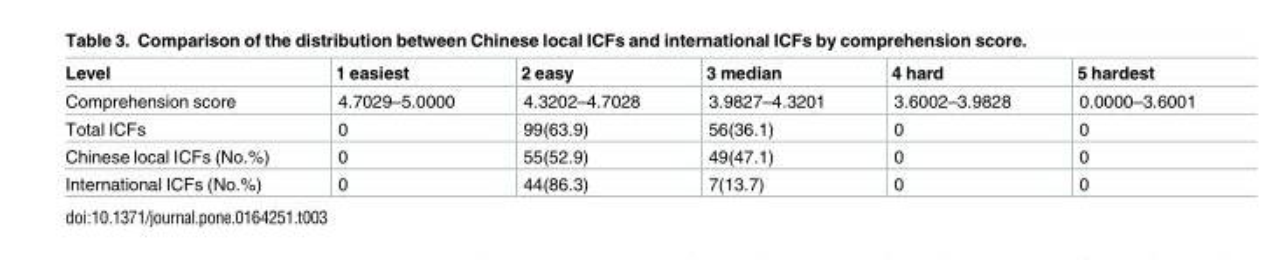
<table><thead><tr><td>Level</td><td>1 easiest</td><td>2 easy</td><td>3 median</td><td>4 hard</td><td>5 hardest</td></tr></thead><tbody><tr><td>Comprehension score</td><td>4.7029–5.0000</td><td>4.3202–4.7028</td><td>3.9827–4.3201</td><td>3.6002–3.9828</td><td>0.0000–3.6001</td></tr><tr><td>Total ICFs</td><td>0</td><td>99(63.9)</td><td>56(36.1)</td><td>0</td><td>0</td></tr><tr><td>Chinese local ICFs (No.%)</td><td>0</td><td>55(52.9)</td><td>49(47.1)</td><td>0</td><td>0</td></tr><tr><td>International ICFs (No.%)</td><td>0</td><td>44(86.3)</td><td>7(13.7)</td><td>0</td><td>0</td></tr></tbody></table>